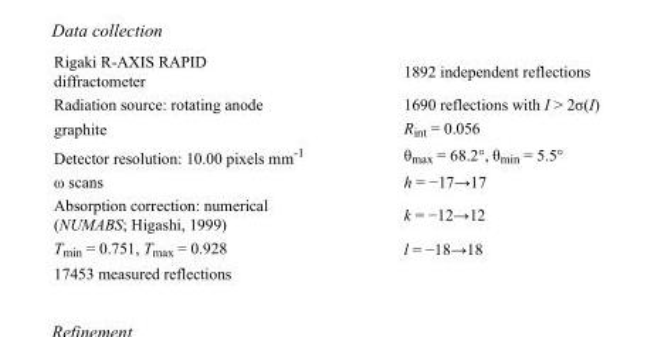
<table><tbody><tr><td>Rigaki R-AXIS RAPID diffractometer</td><td>1892 independent reflections</td></tr><tr><td>Radiation source: rotating anode</td><td>1690 reflections with I &gt; 2σ(I)</td></tr><tr><td>graphite</td><td>R<sub>int</sub> = 0.056</td></tr><tr><td>Detector resolution: 10.00 pixels mm<sup>-1</sup></td><td>θ<sub>max</sub> = 68.2°, θ<sub>min</sub> = 5.5°</td></tr><tr><td>ω scans</td><td>h = −17→17</td></tr><tr><td>Absorption correction: numerical (NUMABS; Higashi, 1999)</td><td>k = −12→12</td></tr><tr><td>T<sub>min</sub> = 0.751, T<sub>max</sub> = 0.928</td><td>l = −18→18</td></tr><tr><td>17453 measured reflections</td><td></td></tr></tbody></table>